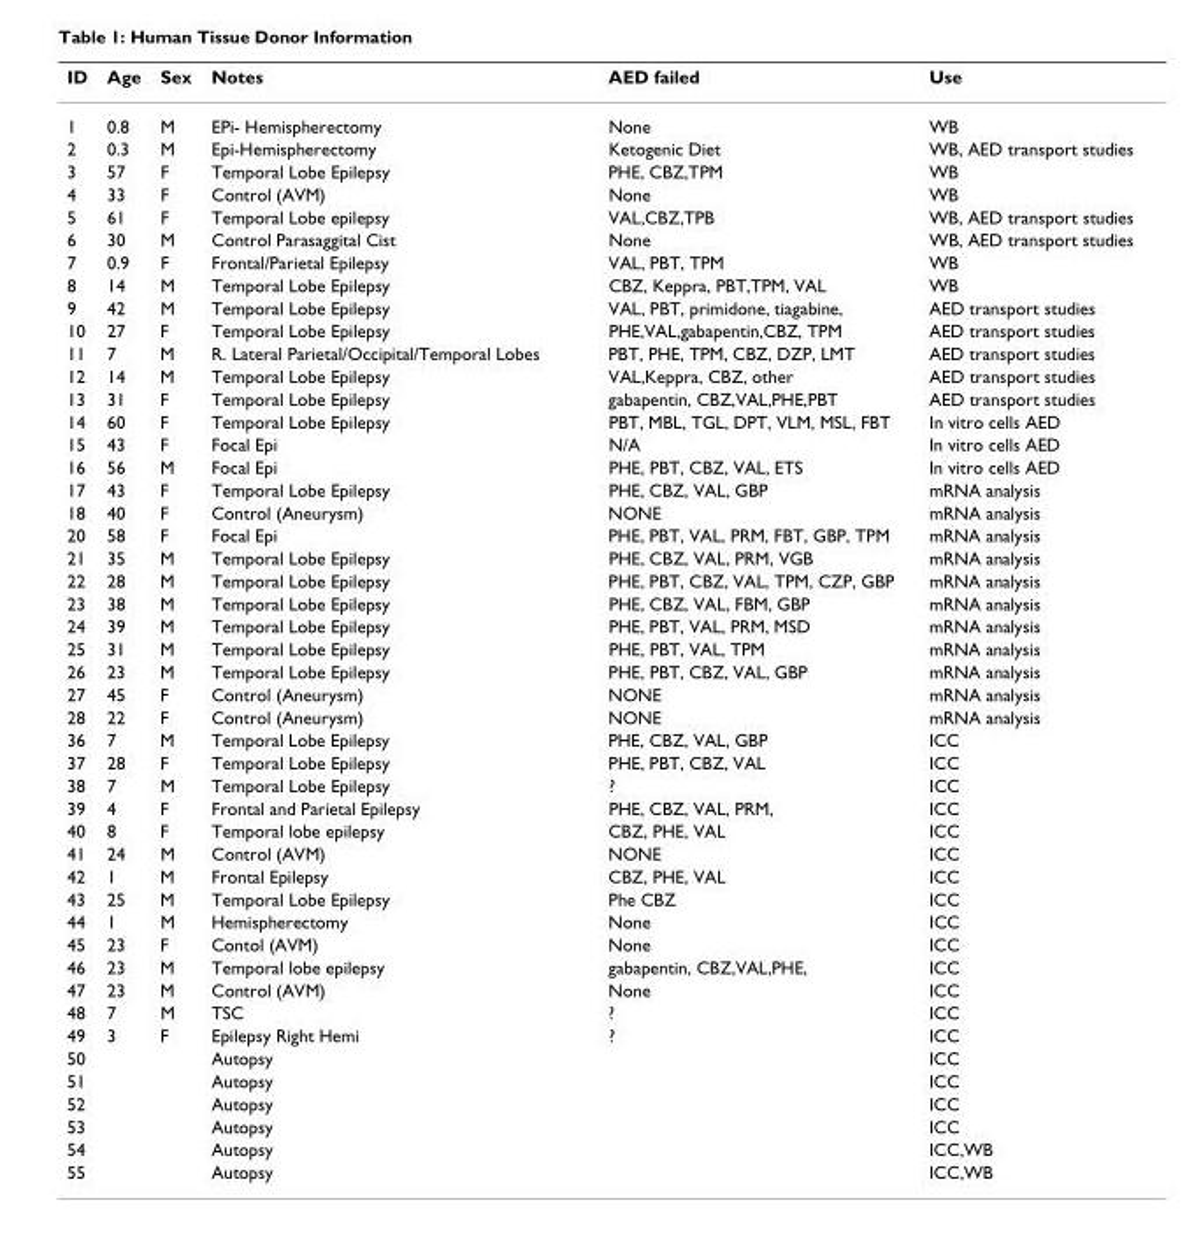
<table><thead><tr><td>ID</td><td>Age</td><td>Sex</td><td>Notes</td><td>AED failed</td><td>Use</td></tr></thead><tbody><tr><td>1</td><td>0.8</td><td>M</td><td>EPi- Hemispherectomy</td><td>None</td><td>WB</td></tr><tr><td>2</td><td>0.3</td><td>M</td><td>Epi-Hemispherectomy</td><td>Ketogenic Diet</td><td>WB, AED transport studies</td></tr><tr><td>3</td><td>57</td><td>F</td><td>Temporal Lobe Epilepsy</td><td>PHE, CBZ,TPM</td><td>WB</td></tr><tr><td>4</td><td>33</td><td>F</td><td>Control (AVM)</td><td>None</td><td>WB</td></tr><tr><td>5</td><td>61</td><td>F</td><td>Temporal Lobe epilepsy</td><td>VAL,CBZ,TPB</td><td>WB, AED transport studies</td></tr><tr><td>6</td><td>30</td><td>M</td><td>Control Parasaggital Cist</td><td>None</td><td>WB, AED transport studies</td></tr><tr><td>7</td><td>0.9</td><td>F</td><td>Frontal/Parietal Epilepsy</td><td>VAL, PBT, TPM</td><td>WB</td></tr><tr><td>8</td><td>14</td><td>M</td><td>Temporal Lobe Epilepsy</td><td>CBZ, Keppra, PBT,TPM, VAL</td><td>WB</td></tr><tr><td>9</td><td>42</td><td>M</td><td>Temporal Lobe Epilepsy</td><td>VAL, PBT, primidone, tiagabine,</td><td>AED transport studies</td></tr><tr><td>10</td><td>27</td><td>F</td><td>Temporal Lobe Epilepsy</td><td>PHE,VAL,gabapentin,CBZ, TPM</td><td>AED transport studies</td></tr><tr><td>11</td><td>7</td><td>M</td><td>R. Lateral Parietal/Occipital/Temporal Lobes</td><td>PBT, PHE, TPM, CBZ, DZP, LMT</td><td>AED transport studies</td></tr><tr><td>12</td><td>14</td><td>M</td><td>Temporal Lobe Epilepsy</td><td>VAL,Keppra, CBZ, other</td><td>AED transport studies</td></tr><tr><td>13</td><td>31</td><td>F</td><td>Temporal Lobe Epilepsy</td><td>gabapentin, CBZ,VAL,PHE,PBT</td><td>AED transport studies</td></tr><tr><td>14</td><td>60</td><td>F</td><td>Temporal Lobe Epilepsy</td><td>PBT, MBL, TGL, DPT, VLM, MSL, FBT</td><td>In vitro cells AED</td></tr><tr><td>15</td><td>43</td><td>F</td><td>Focal Epi</td><td>N/A</td><td>In vitro cells AED</td></tr><tr><td>16</td><td>56</td><td>M</td><td>Focal Epi</td><td>PHE, PBT, CBZ, VAL, ETS</td><td>In vitro cells AED</td></tr><tr><td>17</td><td>43</td><td>F</td><td>Temporal Lobe Epilepsy</td><td>PHE, CBZ, VAL, GBP</td><td>mRNA analysis</td></tr><tr><td>18</td><td>40</td><td>F</td><td>Control (Aneurysm)</td><td>NONE</td><td>mRNA analysis</td></tr><tr><td>20</td><td>58</td><td>F</td><td>Focal Epi</td><td>PHE, PBT, VAL, PRM, FBT, GBP, TPM</td><td>mRNA analysis</td></tr><tr><td>21</td><td>35</td><td>M</td><td>Temporal Lobe Epilepsy</td><td>PHE, CBZ, VAL, PRM, VGB</td><td>mRNA analysis</td></tr><tr><td>22</td><td>28</td><td>M</td><td>Temporal Lobe Epilepsy</td><td>PHE, PBT, CBZ, VAL, TPM, CZP, GBP</td><td>mRNA analysis</td></tr><tr><td>23</td><td>38</td><td>M</td><td>Temporal Lobe Epilepsy</td><td>PHE, CBZ, VAL, FBM, GBP</td><td>mRNA analysis</td></tr><tr><td>24</td><td>39</td><td>M</td><td>Temporal Lobe Epilepsy</td><td>PHE, PBT, VAL, PRM, MSD</td><td>mRNA analysis</td></tr><tr><td>25</td><td>31</td><td>M</td><td>Temporal Lobe Epilepsy</td><td>PHE, PBT, VAL, TPM</td><td>mRNA analysis</td></tr><tr><td>26</td><td>23</td><td>M</td><td>Temporal Lobe Epilepsy</td><td>PHE, PBT, CBZ, VAL, GBP</td><td>mRNA analysis</td></tr><tr><td>27</td><td>45</td><td>F</td><td>Control (Aneurysm)</td><td>NONE</td><td>mRNA analysis</td></tr><tr><td>28</td><td>22</td><td>F</td><td>Control (Aneurysm)</td><td>NONE</td><td>mRNA analysis</td></tr><tr><td>36</td><td>7</td><td>M</td><td>Temporal Lobe Epilepsy</td><td>PHE, CBZ, VAL, GBP</td><td>ICC</td></tr><tr><td>37</td><td>28</td><td>F</td><td>Temporal Lobe Epilepsy</td><td>PHE, PBT, CBZ, VAL</td><td>ICC</td></tr><tr><td>38</td><td>7</td><td>M</td><td>Temporal Lobe Epilepsy</td><td>?</td><td>ICC</td></tr><tr><td>39</td><td>4</td><td>F</td><td>Frontal and Parietal Epilepsy</td><td>PHE, CBZ, VAL, PRM,</td><td>ICC</td></tr><tr><td>40</td><td>8</td><td>F</td><td>Temporal lobe epilepsy</td><td>CBZ, PHE, VAL</td><td>ICC</td></tr><tr><td>41</td><td>24</td><td>M</td><td>Control (AVM)</td><td>NONE</td><td>ICC</td></tr><tr><td>42</td><td>1</td><td>M</td><td>Frontal Epilepsy</td><td>CBZ, PHE, VAL</td><td>ICC</td></tr><tr><td>43</td><td>25</td><td>M</td><td>Temporal Lobe Epilepsy</td><td>Phe CBZ</td><td>ICC</td></tr><tr><td>44</td><td>1</td><td>M</td><td>Hemispherectomy</td><td>None</td><td>ICC</td></tr><tr><td>45</td><td>23</td><td>F</td><td>Contol (AVM)</td><td>None</td><td>ICC</td></tr><tr><td>46</td><td>23</td><td>M</td><td>Temporal lobe epilepsy</td><td>gabapentin, CBZ,VAL,PHE,</td><td>ICC</td></tr><tr><td>47</td><td>23</td><td>M</td><td>Control (AVM)</td><td>None</td><td>ICC</td></tr><tr><td>48</td><td>7</td><td>M</td><td>TSC</td><td>?</td><td>ICC</td></tr><tr><td>49</td><td>3</td><td>F</td><td>Epilepsy Right Hemi</td><td>?</td><td>ICC</td></tr><tr><td>50</td><td></td><td></td><td>Autopsy</td><td></td><td>ICC</td></tr><tr><td>51</td><td></td><td></td><td>Autopsy</td><td></td><td>ICC</td></tr><tr><td>52</td><td></td><td></td><td>Autopsy</td><td></td><td>ICC</td></tr><tr><td>53</td><td></td><td></td><td>Autopsy</td><td></td><td>ICC</td></tr><tr><td>54</td><td></td><td></td><td>Autopsy</td><td></td><td>ICC,WB</td></tr><tr><td>55</td><td></td><td></td><td>Autopsy</td><td></td><td>ICC,WB</td></tr></tbody></table>